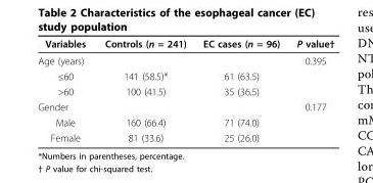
<table><thead><tr><td>Variables</td><td>Controls (n = 241)</td><td>EC cases (n = 96)</td><td>P value†</td></tr></thead><tbody><tr><td>Age (years)</td><td></td><td></td><td>0.395</td></tr><tr><td>≤60</td><td>141 (58.5)*</td><td>61 (63.5)</td><td></td></tr><tr><td>&gt;60</td><td>100 (41.5)</td><td>35 (36.5)</td><td></td></tr><tr><td>Gender</td><td></td><td></td><td>0.177</td></tr><tr><td>Male</td><td>160 (66.4)</td><td>71 (74.0)</td><td></td></tr><tr><td>Female</td><td>81 (33.6)</td><td>25 (26.0)</td><td></td></tr></tbody></table>